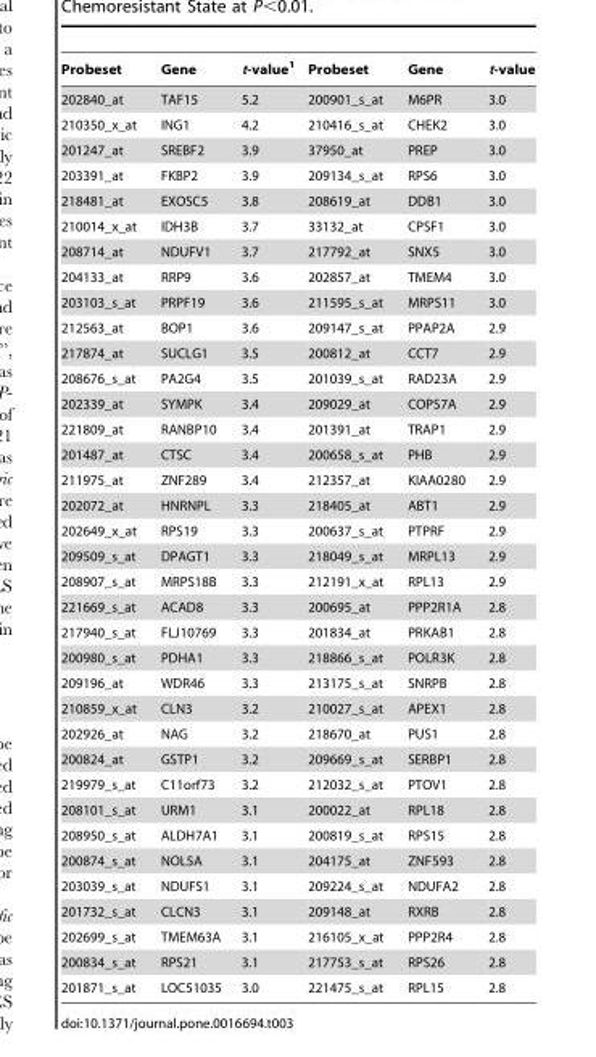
<table><thead><tr><td>Probeset</td><td>Gene</td><td>t-value<sup>1</sup></td><td>Probeset</td><td>Gene</td><td>t-value</td></tr></thead><tbody><tr><td>202840_at</td><td>TAF15</td><td>5.2</td><td>200901_s_at</td><td>M6PR</td><td>3.0</td></tr><tr><td>210350_x_at</td><td>ING1</td><td>4.2</td><td>210416_s_at</td><td>CHEK2</td><td>3.0</td></tr><tr><td>201247_at</td><td>SREBF2</td><td>3.9</td><td>37950_at</td><td>PREP</td><td>3.0</td></tr><tr><td>203391_at</td><td>FKBP2</td><td>3.9</td><td>209134_s_at</td><td>RPS6</td><td>3.0</td></tr><tr><td>218481_at</td><td>EXOSC5</td><td>3.8</td><td>208619_at</td><td>DDB1</td><td>3.0</td></tr><tr><td>210014_x_at</td><td>IDH3B</td><td>3.7</td><td>33132_at</td><td>CPSF1</td><td>3.0</td></tr><tr><td>208714_at</td><td>NDUFV1</td><td>3.7</td><td>217792_at</td><td>SNX5</td><td>3.0</td></tr><tr><td>204133_at</td><td>RRP9</td><td>3.6</td><td>202857_at</td><td>TMEM4</td><td>3.0</td></tr><tr><td>203103_s_at</td><td>PRPF19</td><td>3.6</td><td>211595_s_at</td><td>MRPS11</td><td>3.0</td></tr><tr><td>212563_at</td><td>BOP1</td><td>3.6</td><td>209147_s_at</td><td>PPAP2A</td><td>2.9</td></tr><tr><td>217874_at</td><td>SUCLG1</td><td>3.5</td><td>200812_at</td><td>CCT7</td><td>2.9</td></tr><tr><td>208676_s_at</td><td>PA2G4</td><td>3.5</td><td>201039_s_at</td><td>RAD23A</td><td>2.9</td></tr><tr><td>202339_at</td><td>SYMPK</td><td>3.4</td><td>209029_at</td><td>COPS7A</td><td>2.9</td></tr><tr><td>221809_at</td><td>RANBP10</td><td>3.4</td><td>201391_at</td><td>TRAP1</td><td>2.9</td></tr><tr><td>201487_at</td><td>CTSC</td><td>3.4</td><td>200658_s_at</td><td>PHB</td><td>2.9</td></tr><tr><td>211975_at</td><td>ZNF289</td><td>3.4</td><td>212357_at</td><td>KIAA0280</td><td>2.9</td></tr><tr><td>202072_at</td><td>HNRNPL</td><td>3.3</td><td>218405_at</td><td>ABT1</td><td>2.9</td></tr><tr><td>202649_x_at</td><td>RPS19</td><td>3.3</td><td>200637_s_at</td><td>PTPRF</td><td>2.9</td></tr><tr><td>209509_s_at</td><td>DPAGT1</td><td>3.3</td><td>218049_s_at</td><td>MRPL13</td><td>2.9</td></tr><tr><td>208907_s_at</td><td>MRPS18B</td><td>3.3</td><td>212191_x_at</td><td>RPL13</td><td>2.9</td></tr><tr><td>221669_s_at</td><td>ACAD8</td><td>3.3</td><td>200695_at</td><td>PPP2R1A</td><td>2.8</td></tr><tr><td>217940_s_at</td><td>FLJ10769</td><td>3.3</td><td>201834_at</td><td>PRKAB1</td><td>2.8</td></tr><tr><td>200980_s_at</td><td>PDHA1</td><td>3.3</td><td>218866_s_at</td><td>POLR3K</td><td>2.8</td></tr><tr><td>209196_at</td><td>WDR46</td><td>3.3</td><td>213175_s_at</td><td>SNRPB</td><td>2.8</td></tr><tr><td>210859_x_at</td><td>CLN3</td><td>3.2</td><td>210027_s_at</td><td>APEX1</td><td>2.8</td></tr><tr><td>202926_at</td><td>NAG</td><td>3.2</td><td>218670_at</td><td>PUS1</td><td>2.8</td></tr><tr><td>200824_at</td><td>GSTP1</td><td>3.2</td><td>209669_s_at</td><td>SERBP1</td><td>2.8</td></tr><tr><td>219979_s_at</td><td>C11orf73</td><td>3.2</td><td>212032_s_at</td><td>PTOV1</td><td>2.8</td></tr><tr><td>208101_s_at</td><td>URM1</td><td>3.1</td><td>200022_at</td><td>RPL18</td><td>2.8</td></tr><tr><td>208950_s_at</td><td>ALDH7A1</td><td>3.1</td><td>200819_s_at</td><td>RPS15</td><td>2.8</td></tr><tr><td>200874_s_at</td><td>NOL5A</td><td>3.1</td><td>204175_at</td><td>ZNF593</td><td>2.8</td></tr><tr><td>203039_s_at</td><td>NDUFS1</td><td>3.1</td><td>209224_s_at</td><td>NDUFA2</td><td>2.8</td></tr><tr><td>201732_s_at</td><td>CLCN3</td><td>3.1</td><td>209148_at</td><td>RXRB</td><td>2.8</td></tr><tr><td>202699_s_at</td><td>TMEM63A</td><td>3.1</td><td>216105_x_at</td><td>PPP2R4</td><td>2.8</td></tr><tr><td>200834_s_at</td><td>RPS21</td><td>3.1</td><td>217753_s_at</td><td>RPS26</td><td>2.8</td></tr><tr><td>201871_s_at</td><td>LOC51035</td><td>3.0</td><td>221475_s_at</td><td>RPL15</td><td>2.8</td></tr></tbody></table>